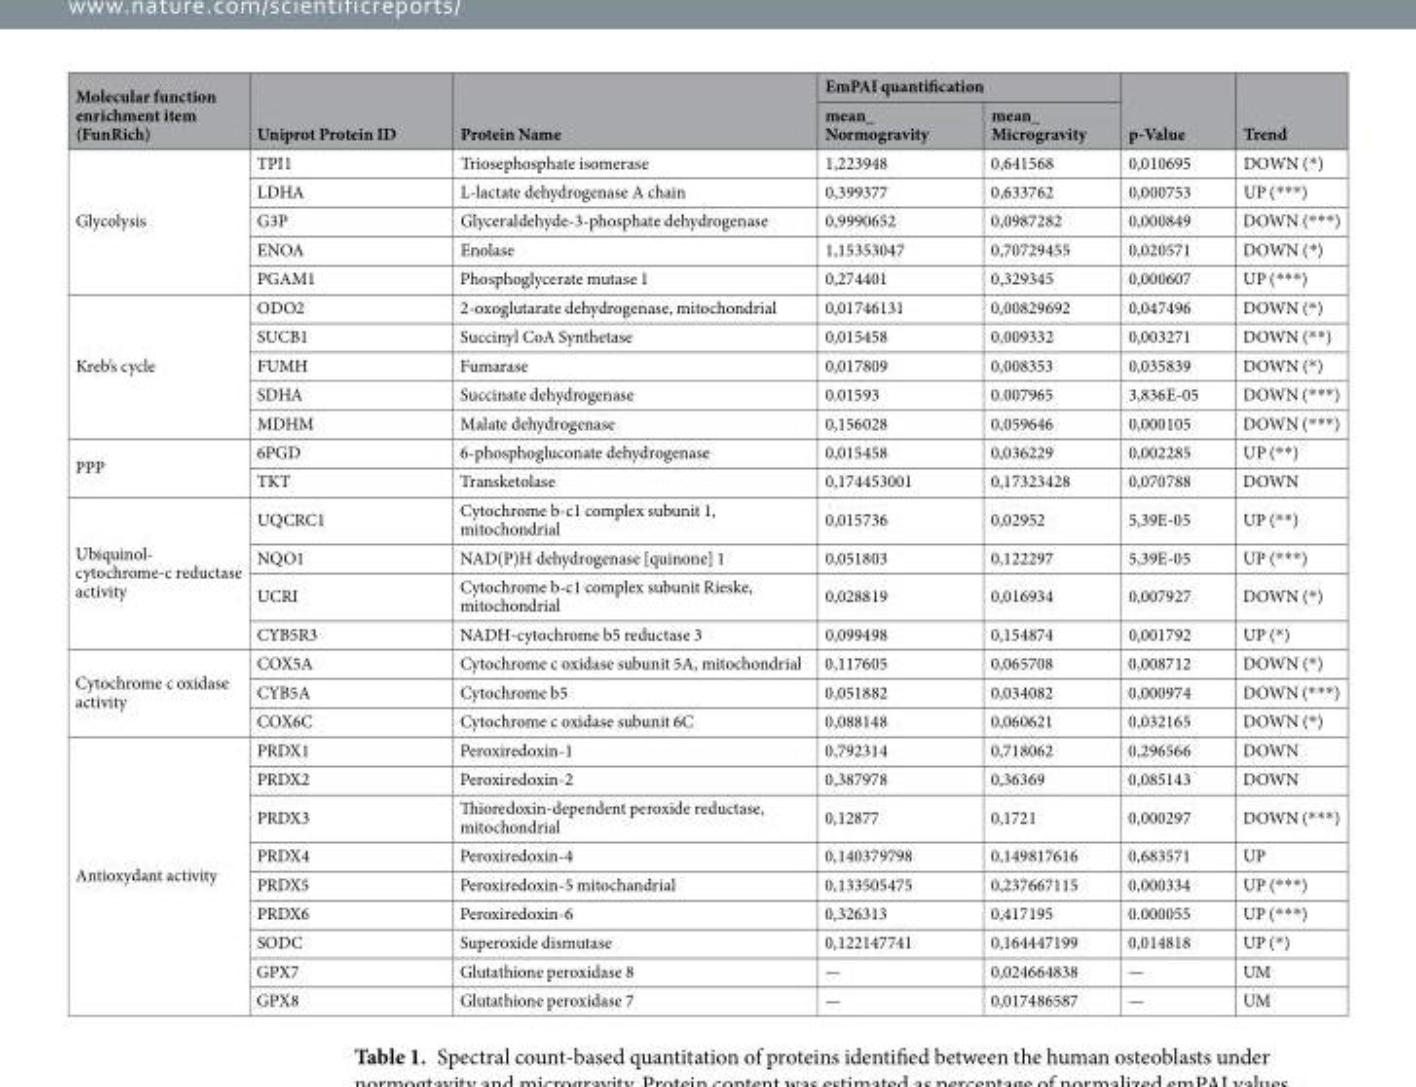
<table><thead><tr><td rowspan="2">Molecular function enrichment item (FunRich)</td><td rowspan="2">Uniprot Protein ID</td><td rowspan="2">Protein Name</td><td colspan="2">EmPAI quantification</td><td rowspan="2">p-Value</td><td rowspan="2">Trend</td></tr><tr><td>mean_ Normogravity</td><td>mean_ Microgravity</td></tr></thead><tbody><tr><td rowspan="5">Glycolysis</td><td>TPI1</td><td>Triosephosphate isomerase</td><td>1,223948</td><td>0,641568</td><td>0,010695</td><td>DOWN (*)</td></tr><tr><td>LDHA</td><td>L-lactate dehydrogenase A chain</td><td>0,399377</td><td>0,633762</td><td>0,000753</td><td>UP (***)</td></tr><tr><td>G3P</td><td>Glyceraldehyde-3-phosphate dehydrogenase</td><td>0,9990652</td><td>0,0987282</td><td>0,000849</td><td>DOWN (***)</td></tr><tr><td>ENOA</td><td>Enolase</td><td>1,15353047</td><td>0,70729455</td><td>0,020571</td><td>DOWN (*)</td></tr><tr><td>PGAM1</td><td>Phosphoglycerate mutase 1</td><td>0,274401</td><td>0,329345</td><td>0,000607</td><td>UP (***)</td></tr><tr><td rowspan="5">Kreb’s cycle</td><td>ODO2</td><td>2-oxoglutarate dehydrogenase, mitochondrial</td><td>0,01746131</td><td>0,00829692</td><td>0,047496</td><td>DOWN (*)</td></tr><tr><td>SUCB1</td><td>Succinyl CoA Synthetase</td><td>0,015458</td><td>0,009332</td><td>0,003271</td><td>DOWN (**)</td></tr><tr><td>FUMH</td><td>Fumarase</td><td>0,017809</td><td>0,008353</td><td>0,035839</td><td>DOWN (*)</td></tr><tr><td>SDHA</td><td>Succinate dehydrogenase</td><td>0.01593</td><td>0.007965</td><td>3,836E-05</td><td>DOWN (***)</td></tr><tr><td>MDHM</td><td>Malate dehydrogenase</td><td>0,156028</td><td>0,059646</td><td>0,000105</td><td>DOWN (***)</td></tr><tr><td rowspan="2">PPP</td><td>6PGD</td><td>6-phosphogluconate dehydrogenase</td><td>0,015458</td><td>0,036229</td><td>0,002285</td><td>UP (**)</td></tr><tr><td>TKT</td><td>Transketolase</td><td>0,174453001</td><td>0,17323428</td><td>0,070788</td><td>DOWN</td></tr><tr><td rowspan="4">Ubiquinol- cytochrome-c reductase activity</td><td>UQCRC1</td><td>Cytochrome b-c1 complex subunit 1, mitochondrial</td><td>0,015736</td><td>0,02952</td><td>5,39E-05</td><td>UP (**)</td></tr><tr><td>NQO1</td><td>NAD(P)H dehydrogenase [quinone] 1</td><td>0,051803</td><td>0,122297</td><td>5,39E-05</td><td>UP (***)</td></tr><tr><td>UCRI</td><td>Cytochrome b-c1 complex subunit Rieske, mitochondrial</td><td>0,028819</td><td>0,016934</td><td>0,007927</td><td>DOWN (*)</td></tr><tr><td>CYB5R3</td><td>NADH-cytochrome b5 reductase 3</td><td>0,099498</td><td>0,154874</td><td>0,001792</td><td>UP (*)</td></tr><tr><td rowspan="3">Cytochrome c oxidase activity</td><td>COX5A</td><td>Cytochrome c oxidase subunit 5A, mitochondrial</td><td>0,117605</td><td>0,065708</td><td>0,008712</td><td>DOWN (*)</td></tr><tr><td>CYB5A</td><td>Cytochrome b5</td><td>0,051882</td><td>0,034082</td><td>0,000974</td><td>DOWN (***)</td></tr><tr><td>COX6C</td><td>Cytochrome c oxidase subunit 6C</td><td>0,088148</td><td>0,060621</td><td>0,032165</td><td>DOWN (*)</td></tr><tr><td rowspan="9">Antioxydant activity</td><td>PRDX1</td><td>Peroxiredoxin-1</td><td>0,792314</td><td>0,718062</td><td>0,296566</td><td>DOWN</td></tr><tr><td>PRDX2</td><td>Peroxiredoxin-2</td><td>0,387978</td><td>0,36369</td><td>0,085143</td><td>DOWN</td></tr><tr><td>PRDX3</td><td>Thioredoxin-dependent peroxide reductase, mitochondrial</td><td>0,12877</td><td>0,1721</td><td>0,000297</td><td>DOWN (***)</td></tr><tr><td>PRDX4</td><td>Peroxiredoxin-4</td><td>0,140379798</td><td>0,149817616</td><td>0,683571</td><td>UP</td></tr><tr><td>PRDX5</td><td>Peroxiredoxin-5 mitochandrial</td><td>0,133505475</td><td>0,237667115</td><td>0,000334</td><td>UP (***)</td></tr><tr><td>PRDX6</td><td>Peroxiredoxin-6</td><td>0,326313</td><td>0,417195</td><td>0.000055</td><td>UP (***)</td></tr><tr><td>SODC</td><td>Superoxide dismutase</td><td>0,122147741</td><td>0,164447199</td><td>0,014818</td><td>UP (*)</td></tr><tr><td>GPX7</td><td>Glutathione peroxidase 8</td><td>—</td><td>0,024664838</td><td>—</td><td>UM</td></tr><tr><td>GPX8</td><td>Glutathione peroxidase 7</td><td>—</td><td>0,017486587</td><td>—</td><td>UM</td></tr></tbody></table>